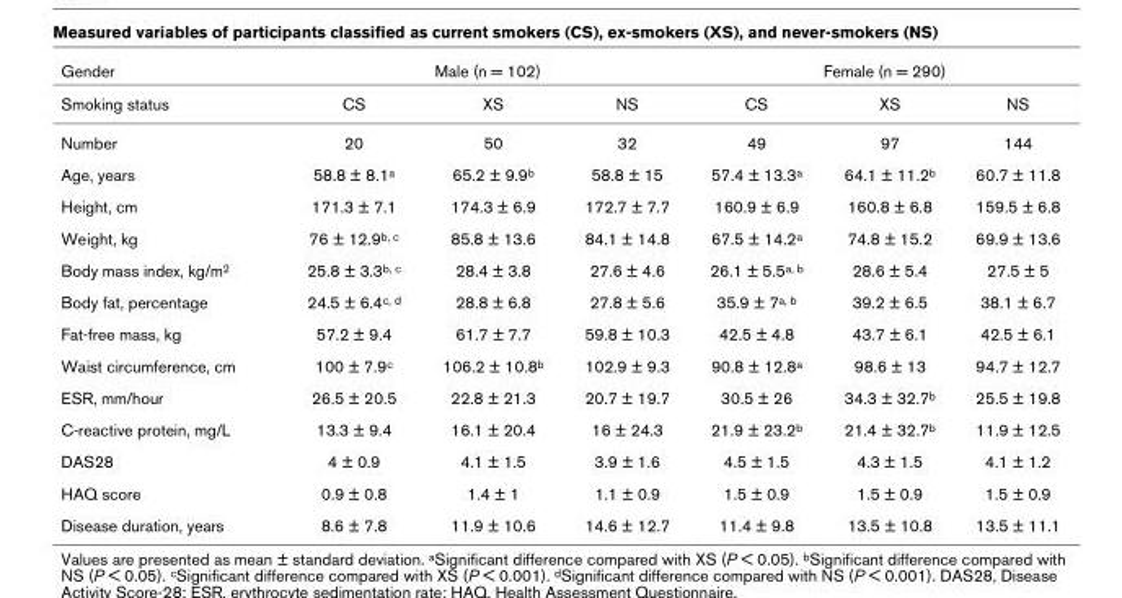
<table><thead><tr><td rowspan="2">Gender Smoking status</td><td colspan="3">Male (n = 102)</td><td colspan="3">Female (n = 290)</td></tr><tr><td>CS</td><td>XS</td><td>NS</td><td>CS</td><td>XS</td><td>NS</td></tr></thead><tbody><tr><td>Number</td><td>20</td><td>50</td><td>32</td><td>49</td><td>97</td><td>144</td></tr><tr><td>Age, years</td><td>58.8 ± 8.1<sup>a</sup></td><td>65.2 ± 9.9<sup>b</sup></td><td>58.8 ± 15</td><td>57.4 ± 13.3<sup>a</sup></td><td>64.1 ± 11.2<sup>b</sup></td><td>60.7 ± 11.8</td></tr><tr><td>Height, cm</td><td>171.3 ± 7.1</td><td>174.3 ± 6.9</td><td>172.7 ± 7.7</td><td>160.9 ± 6.9</td><td>160.8 ± 6.8</td><td>159.5 ± 6.8</td></tr><tr><td>Weight, kg</td><td>76 ± 12.9<sup>b, c</sup></td><td>85.8 ± 13.6</td><td>84.1 ± 14.8</td><td>67.5 ± 14.2<sup>a</sup></td><td>74.8 ± 15.2</td><td>69.9 ± 13.6</td></tr><tr><td>Body mass index, kg/m<sup>2</sup></td><td>25.8 ± 3.3<sup>b, c</sup></td><td>28.4 ± 3.8</td><td>27.6 ± 4.6</td><td>26.1 ± 5.5<sup>a, b</sup></td><td>28.6 ± 5.4</td><td>27.5 ± 5</td></tr><tr><td>Body fat, percentage</td><td>24.5 ± 6.4<sup>c, d</sup></td><td>28.8 ± 6.8</td><td>27.8 ± 5.6</td><td>35.9 ± 7<sup>a, b</sup></td><td>39.2 ± 6.5</td><td>38.1 ± 6.7</td></tr><tr><td>Fat-free mass, kg</td><td>57.2 ± 9.4</td><td>61.7 ± 7.7</td><td>59.8 ± 10.3</td><td>42.5 ± 4.8</td><td>43.7 ± 6.1</td><td>42.5 ± 6.1</td></tr><tr><td>Waist circumference, cm</td><td>100 ± 7.9<sup>c</sup></td><td>106.2 ± 10.8<sup>b</sup></td><td>102.9 ± 9.3</td><td>90.8 ± 12.8<sup>a</sup></td><td>98.6 ± 13</td><td>94.7 ± 12.7</td></tr><tr><td>ESR, mm/hour</td><td>26.5 ± 20.5</td><td>22.8 ± 21.3</td><td>20.7 ± 19.7</td><td>30.5 ± 26</td><td>34.3 ± 32.7<sup>b</sup></td><td>25.5 ± 19.8</td></tr><tr><td>C-reactive protein, mg/L</td><td>13.3 ± 9.4</td><td>16.1 ± 20.4</td><td>16 ± 24.3</td><td>21.9 ± 23.2<sup>b</sup></td><td>21.4 ± 32.7<sup>b</sup></td><td>11.9 ± 12.5</td></tr><tr><td>DAS28</td><td>4 ± 0.9</td><td>4.1 ± 1.5</td><td>3.9 ± 1.6</td><td>4.5 ± 1.5</td><td>4.3 ± 1.5</td><td>4.1 ± 1.2</td></tr><tr><td>HAQ score</td><td>0.9 ± 0.8</td><td>1.4 ± 1</td><td>1.1 ± 0.9</td><td>1.5 ± 0.9</td><td>1.5 ± 0.9</td><td>1.5 ± 0.9</td></tr><tr><td>Disease duration, years</td><td>8.6 ± 7.8</td><td>11.9 ± 10.6</td><td>14.6 ± 12.7</td><td>11.4 ± 9.8</td><td>13.5 ± 10.8</td><td>13.5 ± 11.1</td></tr></tbody></table>